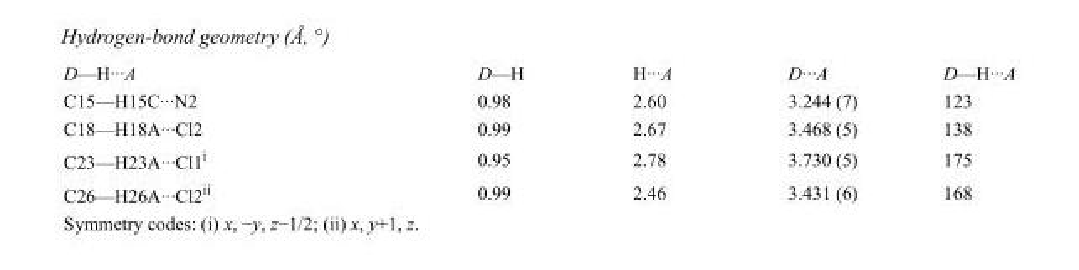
<table><tbody><tr><td>D—H···A</td><td>D—H</td><td>H···A</td><td>D···A</td><td>D—H···A</td></tr><tr><td>C15—H15C···N2</td><td>0.98</td><td>2.60</td><td>3.244 (7)</td><td>123</td></tr><tr><td>C18—H18A···Cl2</td><td>0.99</td><td>2.67</td><td>3.468 (5)</td><td>138</td></tr><tr><td>C23—H23A···Cl1<sup>i</sup></td><td>0.95</td><td>2.78</td><td>3.730 (5)</td><td>175</td></tr><tr><td>C26—H26A···Cl2<sup>ii</sup></td><td>0.99</td><td>2.46</td><td>3.431 (6)</td><td>168</td></tr></tbody></table>